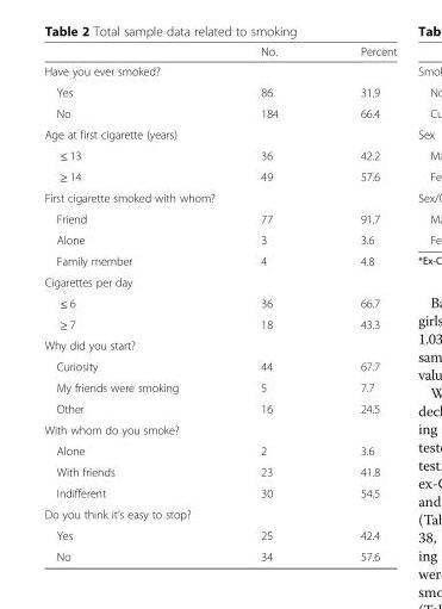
<table><thead><tr><td></td><td>No.</td><td>Percent</td></tr></thead><tbody><tr><td colspan="3">Have you ever smoked?</td></tr><tr><td>Yes</td><td>86</td><td>31.9</td></tr><tr><td>No</td><td>184</td><td>66.4</td></tr><tr><td colspan="3">Age at first cigarette (years)</td></tr><tr><td>≤ 13</td><td>36</td><td>42.2</td></tr><tr><td>≥ 14</td><td>49</td><td>57.6</td></tr><tr><td colspan="3">First cigarette smoked with whom?</td></tr><tr><td>Friend</td><td>77</td><td>91.7</td></tr><tr><td>Alone</td><td>3</td><td>3.6</td></tr><tr><td>Family member</td><td>4</td><td>4.8</td></tr><tr><td colspan="3">Cigarettes per day</td></tr><tr><td>≤ 6</td><td>36</td><td>66.7</td></tr><tr><td>≥ 7</td><td>18</td><td>43.3</td></tr><tr><td colspan="3">Why did you start?</td></tr><tr><td>Curiosity</td><td>44</td><td>67.7</td></tr><tr><td>My friends were smoking</td><td>5</td><td>7.7</td></tr><tr><td>Other</td><td>16</td><td>24.5</td></tr><tr><td colspan="3">With whom do you smoke?</td></tr><tr><td>Alone</td><td>2</td><td>3.6</td></tr><tr><td>With friends</td><td>23</td><td>41.8</td></tr><tr><td>Indifferent</td><td>30</td><td>54.5</td></tr><tr><td colspan="3">Do you think it’s easy to stop?</td></tr><tr><td>Yes</td><td>25</td><td>42.4</td></tr><tr><td>No</td><td>34</td><td>57.6</td></tr></tbody></table>